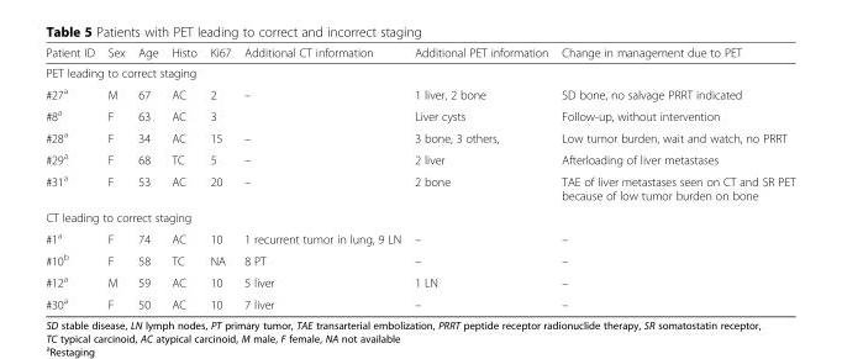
<table><thead><tr><td>Patient ID</td><td>Sex</td><td>Age</td><td>Histo</td><td>Ki67</td><td>Additional CT information</td><td>Additional PET information</td><td>Change in management due to PET</td></tr></thead><tbody><tr><td colspan="8">PET leading to correct staging</td></tr><tr><td>#27<sup>a</sup></td><td>M</td><td>67</td><td>AC</td><td>2</td><td>–</td><td>1 liver, 2 bone</td><td>SD bone, no salvage PRRT indicated</td></tr><tr><td>#8<sup>a</sup></td><td>F</td><td>63</td><td>AC</td><td>3</td><td></td><td>Liver cysts</td><td>Follow-up, without intervention</td></tr><tr><td>#28<sup>a</sup></td><td>F</td><td>34</td><td>AC</td><td>15</td><td>–</td><td>3 bone, 3 others,</td><td>Low tumor burden, wait and watch, no PRRT</td></tr><tr><td>#29<sup>a</sup></td><td>F</td><td>68</td><td>TC</td><td>5</td><td>–</td><td>2 liver</td><td>Afterloading of liver metastases</td></tr><tr><td>#31<sup>a</sup></td><td>F</td><td>53</td><td>AC</td><td>20</td><td>–</td><td>2 bone</td><td>TAE of liver metastases seen on CT and SR PET because of low tumor burden on bone</td></tr><tr><td colspan="8">CT leading to correct staging</td></tr><tr><td>#1<sup>a</sup></td><td>F</td><td>74</td><td>AC</td><td>10</td><td>1 recurrent tumor in lung, 9 LN</td><td>–</td><td>–</td></tr><tr><td>#10<sup>b</sup></td><td>F</td><td>58</td><td>TC</td><td>NA</td><td>8 PT</td><td>–</td><td>–</td></tr><tr><td>#12<sup>a</sup></td><td>M</td><td>59</td><td>AC</td><td>10</td><td>5 liver</td><td>1 LN</td><td>–</td></tr><tr><td>#30<sup>a</sup></td><td>F</td><td>50</td><td>AC</td><td>10</td><td>7 liver</td><td>–</td><td>–</td></tr></tbody></table>